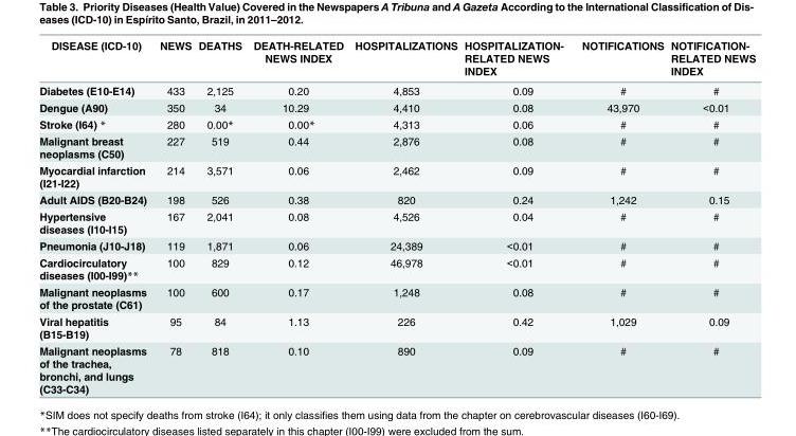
<table><thead><tr><td>DISEASE (ICD-10)</td><td>NEWS</td><td>DEATHS</td><td>DEATH-RELATED NEWS INDEX</td><td>HOSPITALIZATIONS</td><td>HOSPITALIZATION- RELATED NEWS INDEX</td><td>NOTIFICATIONS</td><td>NOTIFICATION- RELATED NEWS INDEX</td></tr></thead><tbody><tr><td>Diabetes (E10-E14)</td><td>433</td><td>2,125</td><td>0.20</td><td>4,853</td><td>0.09</td><td>#</td><td>#</td></tr><tr><td>Dengue (A90)</td><td>350</td><td>34</td><td>10.29</td><td>4,410</td><td>0.08</td><td>43,970</td><td>&lt;0.01</td></tr><tr><td>Stroke (I64) *</td><td>280</td><td>0.00*</td><td>0.00*</td><td>4,313</td><td>0.06</td><td>#</td><td>#</td></tr><tr><td>Malignant breast neoplasms (C50)</td><td>227</td><td>519</td><td>0.44</td><td>2,876</td><td>0.08</td><td>#</td><td>#</td></tr><tr><td>Myocardial infarction (I21-I22)</td><td>214</td><td>3,571</td><td>0.06</td><td>2,462</td><td>0.09</td><td>#</td><td>#</td></tr><tr><td>Adult AIDS (B20-B24)</td><td>198</td><td>526</td><td>0.38</td><td>820</td><td>0.24</td><td>1,242</td><td>0.15</td></tr><tr><td>Hypertensive diseases (I10-I15)</td><td>167</td><td>2,041</td><td>0.08</td><td>4,526</td><td>0.04</td><td>#</td><td>#</td></tr><tr><td>Pneumonia (J10-J18)</td><td>119</td><td>1,871</td><td>0.06</td><td>24,389</td><td>&lt;0.01</td><td>#</td><td>#</td></tr><tr><td>Cardiocirculatory diseases (I00-I99)**</td><td>100</td><td>829</td><td>0.12</td><td>46,978</td><td>&lt;0.01</td><td>#</td><td>#</td></tr><tr><td>Malignant neoplasms of the prostate (C61)</td><td>100</td><td>600</td><td>0.17</td><td>1,248</td><td>0.08</td><td>#</td><td>#</td></tr><tr><td>Viral hepatitis (B15-B19)</td><td>95</td><td>84</td><td>1.13</td><td>226</td><td>0.42</td><td>1,029</td><td>0.09</td></tr><tr><td>Malignant neoplasms of the trachea, bronchi, and lungs (C33-C34)</td><td>78</td><td>818</td><td>0.10</td><td>890</td><td>0.09</td><td>#</td><td>#</td></tr></tbody></table>